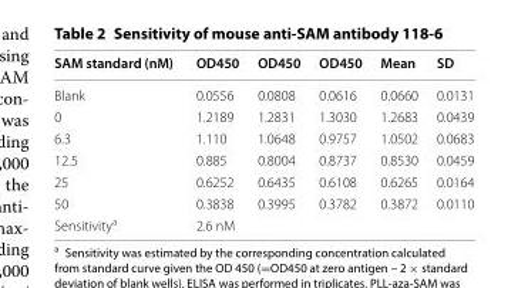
<table><thead><tr><td>SAM standard (nM)</td><td>OD450</td><td>OD450</td><td>OD450</td><td>Mean</td><td>SD</td></tr></thead><tbody><tr><td>Blank</td><td>0.0556</td><td>0.0808</td><td>0.0616</td><td>0.0660</td><td>0.0131</td></tr><tr><td>0</td><td>1.2189</td><td>1.2831</td><td>1.3030</td><td>1.2683</td><td>0.0439</td></tr><tr><td>6.3</td><td>1.110</td><td>1.0648</td><td>0.9757</td><td>1.0502</td><td>0.0683</td></tr><tr><td>12.5</td><td>0.885</td><td>0.8004</td><td>0.8737</td><td>0.8530</td><td>0.0459</td></tr><tr><td>25</td><td>0.6252</td><td>0.6435</td><td>0.6108</td><td>0.6265</td><td>0.0164</td></tr><tr><td>50</td><td>0.3838</td><td>0.3995</td><td>0.3782</td><td>0.3872</td><td>0.0110</td></tr><tr><td>Sensitivity<sup>a</sup></td><td colspan="5">2.6 nM</td></tr></tbody></table>